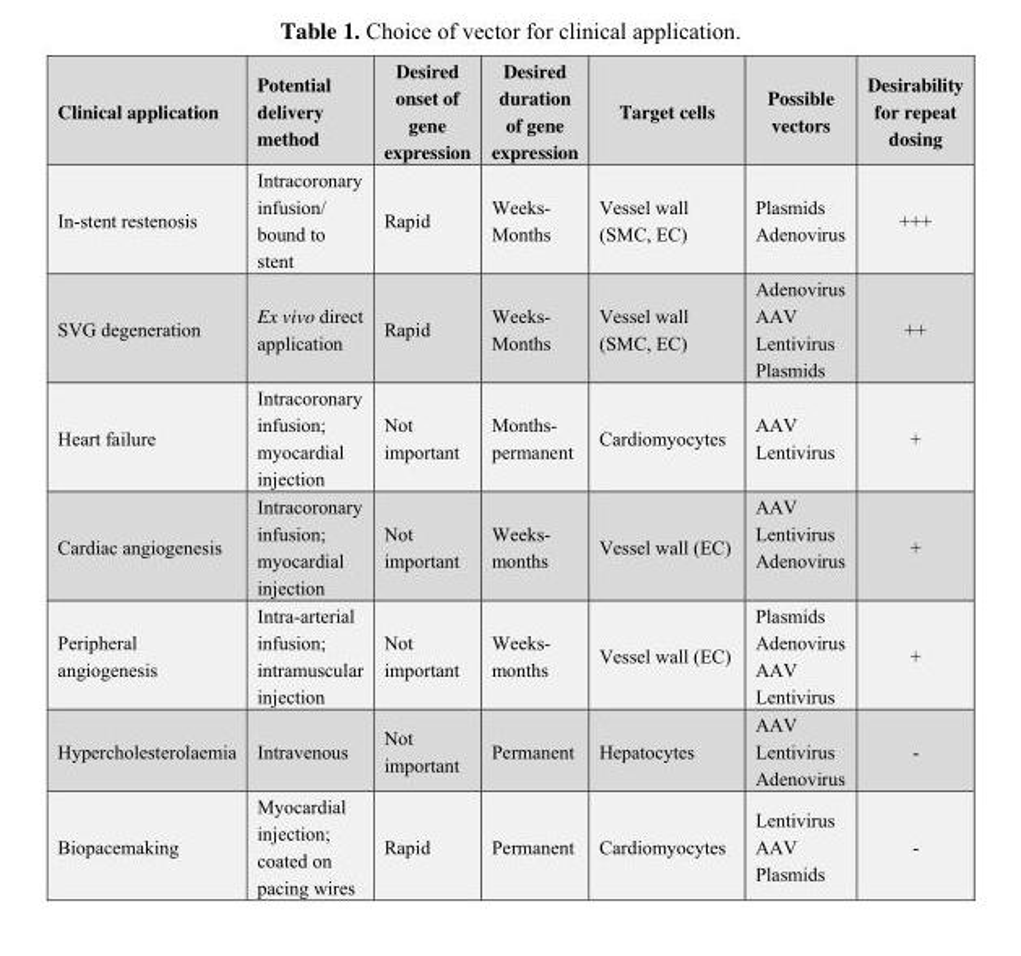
<table><thead><tr><td>Clinical application</td><td>Potential delivery method</td><td>Desired onset of gene expression</td><td>Desired duration of gene expression</td><td>Target cells</td><td>Possible vectors</td><td>Desirability for repeat dosing</td></tr></thead><tbody><tr><td>In-stent restenosis</td><td>Intracoronary infusion/ bound to stent</td><td>Rapid</td><td>Weeks- Months</td><td>Vessel wall (SMC, EC)</td><td>Plasmids Adenovirus</td><td>+++</td></tr><tr><td>SVG degeneration</td><td>Ex vivo direct application</td><td>Rapid</td><td>Weeks- Months</td><td>Vessel wall (SMC, EC)</td><td>Adenovirus AAV Lentivirus Plasmids</td><td>++</td></tr><tr><td>Heart failure</td><td>Intracoronary infusion; myocardial injection</td><td>Not important</td><td>Months- permanent</td><td>Cardiomyocytes</td><td>AAV Lentivirus</td><td>+</td></tr><tr><td>Cardiac angiogenesis</td><td>Intracoronary infusion; myocardial injection</td><td>Not important</td><td>Weeks- months</td><td>Vessel wall (EC)</td><td>AAV Lentivirus Adenovirus</td><td>+</td></tr><tr><td>Peripheral angiogenesis</td><td>Intra-arterial infusion; intramuscular injection</td><td>Not important</td><td>Weeks- months</td><td>Vessel wall (EC)</td><td>Plasmids Adenovirus AAV Lentivirus</td><td>+</td></tr><tr><td>Hypercholesterolaemia</td><td>Intravenous</td><td>Not important</td><td>Permanent</td><td>Hepatocytes</td><td>AAV Lentivirus Adenovirus</td><td>-</td></tr><tr><td>Biopacemaking</td><td>Myocardial injection; coated on pacing wires</td><td>Rapid</td><td>Permanent</td><td>Cardiomyocytes</td><td>Lentivirus AAV Plasmids</td><td>-</td></tr></tbody></table>